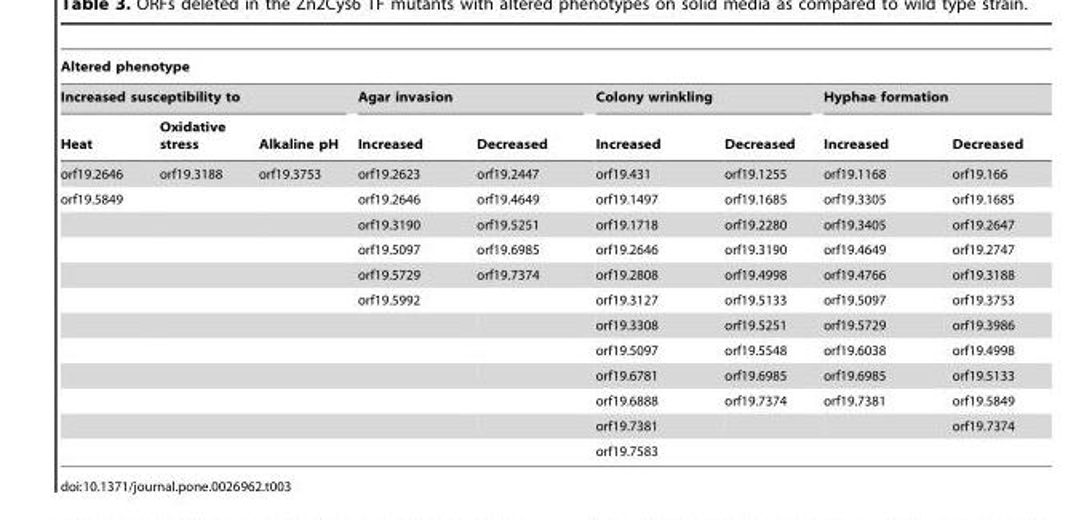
<table><thead><tr><td colspan="9">Altered phenotype</td></tr><tr><td colspan="3">Increased susceptibility to</td><td colspan="2">Agar invasion</td><td colspan="2">Colony wrinkling</td><td colspan="2">Hyphae formation</td></tr><tr><td>Heat</td><td>Oxidative stress</td><td>Alkaline pH</td><td>Increased</td><td>Decreased</td><td>Increased</td><td>Decreased</td><td>Increased</td><td>Decreased</td></tr></thead><tbody><tr><td>orf19.2646</td><td>orf19.3188</td><td>orf19.3753</td><td>orf19.2623</td><td>orf19.2447</td><td>orf19.431</td><td>orf19.1255</td><td>orf19.1168</td><td>orf19.166</td></tr><tr><td rowspan="11">orf19.5849</td><td></td><td></td><td>orf19.2646</td><td>orf19.4649</td><td>orf19.1497</td><td>orf19.1685</td><td>orf19.3305</td><td>orf19.1685</td></tr><tr><td></td><td></td><td>orf19.3190</td><td>orf19.5251</td><td>orf19.1718</td><td>orf19.2280</td><td>orf19.3405</td><td>orf19.2647</td></tr><tr><td></td><td></td><td>orf19.5097</td><td>orf19.6985</td><td>orf19.2646</td><td>orf19.3190</td><td>orf19.4649</td><td>orf19.2747</td></tr><tr><td></td><td></td><td>orf19.5729</td><td>orf19.7374</td><td>orf19.2808</td><td>orf19.4998</td><td>orf19.4766</td><td>orf19.3188</td></tr><tr><td></td><td></td><td>orf19.5992</td><td></td><td>orf19.3127</td><td>orf19.5133</td><td>orf19.5097</td><td>orf19.3753</td></tr><tr><td></td><td></td><td></td><td></td><td>orf19.3308</td><td>orf19.5251</td><td>orf19.5729</td><td>orf19.3986</td></tr><tr><td></td><td></td><td></td><td></td><td>orf19.5097</td><td>orf19.5548</td><td>orf19.6038</td><td>orf19.4998</td></tr><tr><td></td><td></td><td></td><td></td><td>orf19.6781</td><td>orf19.6985</td><td>orf19.6985</td><td>orf19.5133</td></tr><tr><td></td><td></td><td></td><td></td><td>orf19.6888</td><td>orf19.7374</td><td>orf19.7381</td><td>orf19.5849</td></tr><tr><td></td><td></td><td></td><td></td><td>orf19.7381</td><td></td><td></td><td>orf19.7374</td></tr><tr><td></td><td></td><td></td><td></td><td>orf19.7583</td><td></td><td></td><td></td></tr></tbody></table>